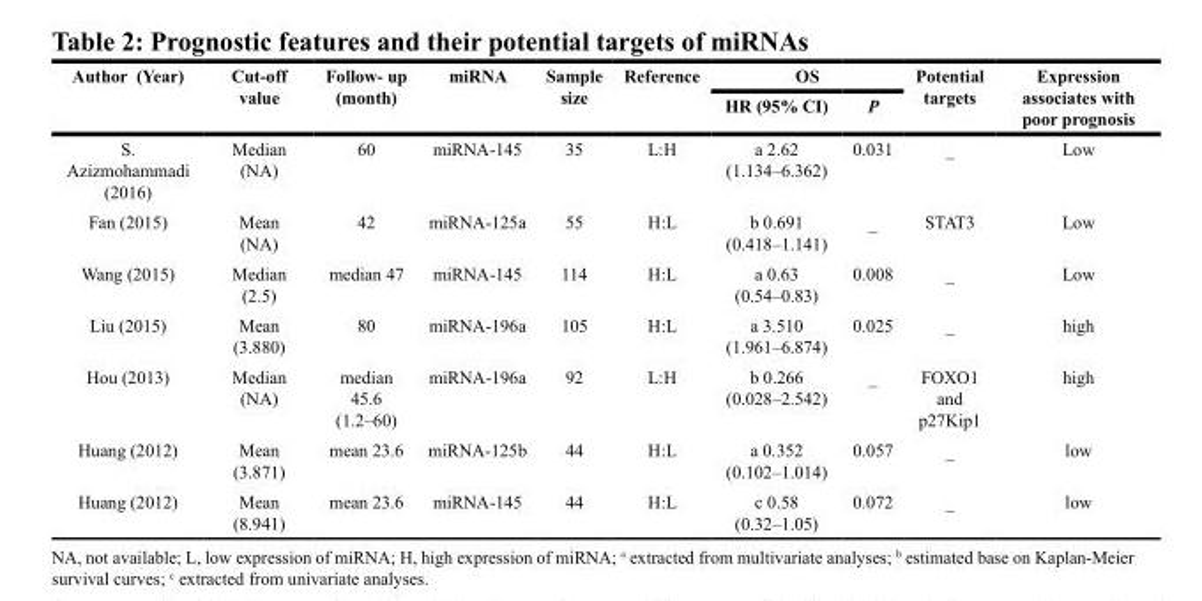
<table><thead><tr><td rowspan="2">Author (Year)</td><td rowspan="2">Cut-off value</td><td rowspan="2">Follow- up (month)</td><td rowspan="2">miRNA</td><td rowspan="2">Sample size</td><td rowspan="2">Reference</td><td colspan="2">OS</td><td rowspan="2">Potential targets</td><td rowspan="2">Expression associates with poor prognosis</td></tr><tr><td>HR (95% CI)</td><td>P</td></tr></thead><tbody><tr><td>S. Azizmohammadi (2016)</td><td>Median (NA)</td><td>60</td><td>miRNA-145</td><td>35</td><td>L:H</td><td>a 2.62 (1.134–6.362)</td><td>0.031</td><td>_</td><td>Low</td></tr><tr><td>Fan (2015)</td><td>Mean (NA)</td><td>42</td><td>miRNA-125a</td><td>55</td><td>H:L</td><td>b 0.691 (0.418–1.141)</td><td>_</td><td>STAT3</td><td>Low</td></tr><tr><td>Wang (2015)</td><td>Median (2.5)</td><td>median 47</td><td>miRNA-145</td><td>114</td><td>H:L</td><td>a 0.63 (0.54–0.83)</td><td>0.008</td><td>_</td><td>Low</td></tr><tr><td>Liu (2015)</td><td>Mean (3.880)</td><td>80</td><td>miRNA-196a</td><td>105</td><td>H:L</td><td>a 3.510 (1.961–6.874)</td><td>0.025</td><td>_</td><td>high</td></tr><tr><td>Hou (2013)</td><td>Median (NA)</td><td>median 45.6 (1.2–60)</td><td>miRNA-196a</td><td>92</td><td>L:H</td><td>b 0.266 (0.028–2.542)</td><td>_</td><td>FOXO1 and p27Kip1</td><td>high</td></tr><tr><td>Huang (2012)</td><td>Mean (3.871)</td><td>mean 23.6</td><td>miRNA-125b</td><td>44</td><td>H:L</td><td>a 0.352 (0.102–1.014)</td><td>0.057</td><td>_</td><td>low</td></tr><tr><td>Huang (2012)</td><td>Mean (8.941)</td><td>mean 23.6</td><td>miRNA-145</td><td>44</td><td>H:L</td><td>c 0.58 (0.32–1.05)</td><td>0.072</td><td>_</td><td>low</td></tr></tbody></table>